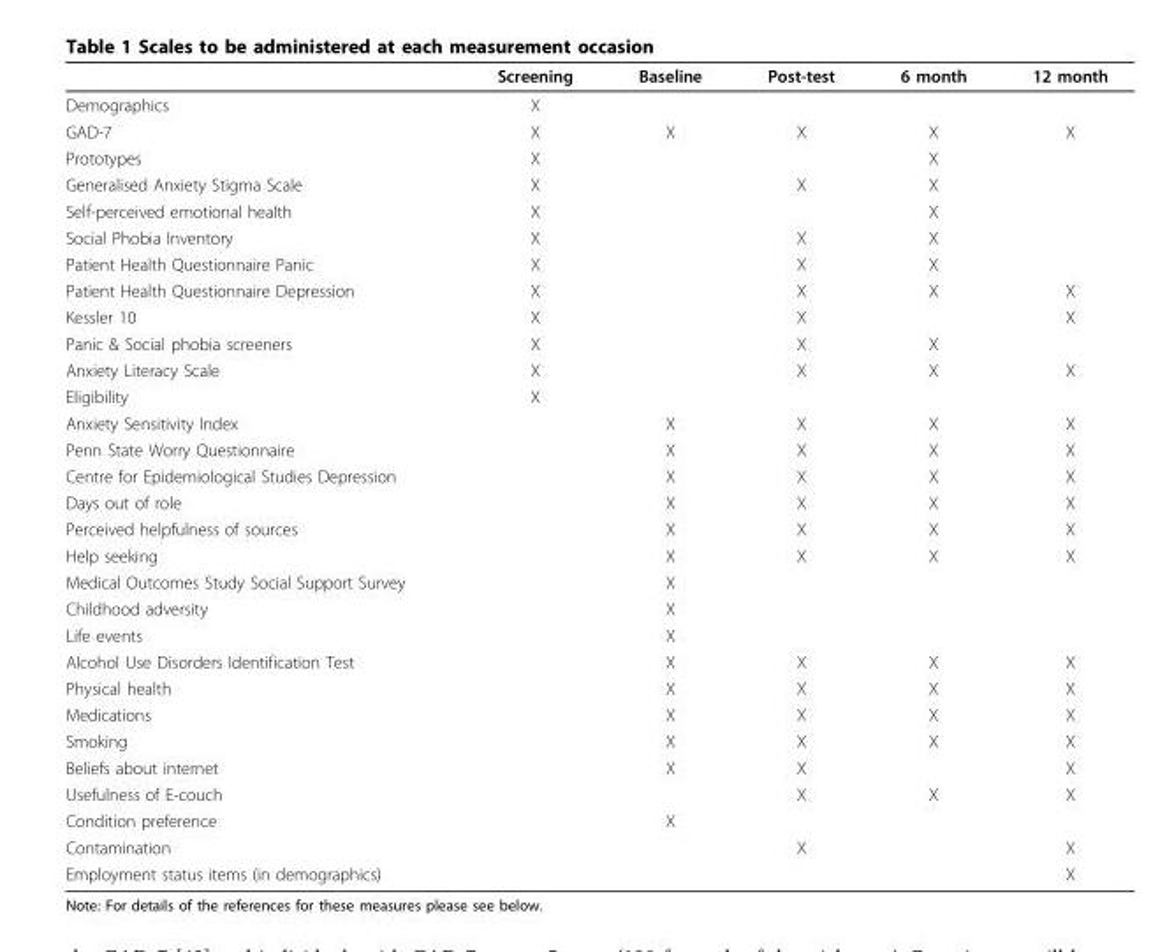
<table><thead><tr><td></td><td>Screening</td><td>Baseline</td><td>Post-test</td><td>6 month</td><td>12 month</td></tr></thead><tbody><tr><td>Demographics</td><td>X</td><td></td><td></td><td></td><td></td></tr><tr><td>GAD-7</td><td>X</td><td>X</td><td>X</td><td>X</td><td>X</td></tr><tr><td>Prototypes</td><td>X</td><td></td><td></td><td>X</td><td></td></tr><tr><td>Generalised Anxiety Stigma Scale</td><td>X</td><td></td><td>X</td><td>X</td><td></td></tr><tr><td>Self-perceived emotional health</td><td>X</td><td></td><td></td><td>X</td><td></td></tr><tr><td>Social Phobia Inventory</td><td>X</td><td></td><td>X</td><td>X</td><td></td></tr><tr><td>Patient Health Questionnaire Panic</td><td>X</td><td></td><td>X</td><td>X</td><td></td></tr><tr><td>Patient Health Questionnaire Depression</td><td>X</td><td></td><td>X</td><td>X</td><td>X</td></tr><tr><td>Kessler 10</td><td>X</td><td></td><td>X</td><td></td><td>X</td></tr><tr><td>Panic &amp; Social phobia screeners</td><td>X</td><td></td><td>X</td><td>X</td><td></td></tr><tr><td>Anxiety Literacy Scale</td><td>X</td><td></td><td>X</td><td>X</td><td>X</td></tr><tr><td>Eligibility</td><td>X</td><td></td><td></td><td></td><td></td></tr><tr><td>Anxiety Sensitivity Index</td><td></td><td>X</td><td>X</td><td>X</td><td>X</td></tr><tr><td>Penn State Worry Questionnaire</td><td></td><td>X</td><td>X</td><td>X</td><td>X</td></tr><tr><td>Centre for Epidemiological Studies Depression</td><td></td><td>X</td><td>X</td><td>X</td><td>X</td></tr><tr><td>Days out of role</td><td></td><td>X</td><td>X</td><td>X</td><td>X</td></tr><tr><td>Perceived helpfulness of sources</td><td></td><td>X</td><td>X</td><td>X</td><td>X</td></tr><tr><td>Help seeking</td><td></td><td>X</td><td>X</td><td>X</td><td>X</td></tr><tr><td>Medical Outcomes Study Social Support Survey</td><td></td><td>X</td><td></td><td></td><td></td></tr><tr><td>Childhood adversity</td><td></td><td>X</td><td></td><td></td><td></td></tr><tr><td>Life events</td><td></td><td>X</td><td></td><td></td><td></td></tr><tr><td>Alcohol Use Disorders Identification Test</td><td></td><td>X</td><td>X</td><td>X</td><td>X</td></tr><tr><td>Physical health</td><td></td><td>X</td><td>X</td><td>X</td><td>X</td></tr><tr><td>Medications</td><td></td><td>X</td><td>X</td><td>X</td><td>X</td></tr><tr><td>Smoking</td><td></td><td>X</td><td>X</td><td>X</td><td>X</td></tr><tr><td>Beliefs about internet</td><td></td><td>X</td><td>X</td><td></td><td>X</td></tr><tr><td>Usefulness of E-couch</td><td></td><td></td><td>X</td><td>X</td><td>X</td></tr><tr><td>Condition preference</td><td></td><td>X</td><td></td><td></td><td></td></tr><tr><td>Contamination</td><td></td><td></td><td>X</td><td></td><td>X</td></tr><tr><td>Employment status items (in demographics)</td><td></td><td></td><td></td><td></td><td>X</td></tr></tbody></table>